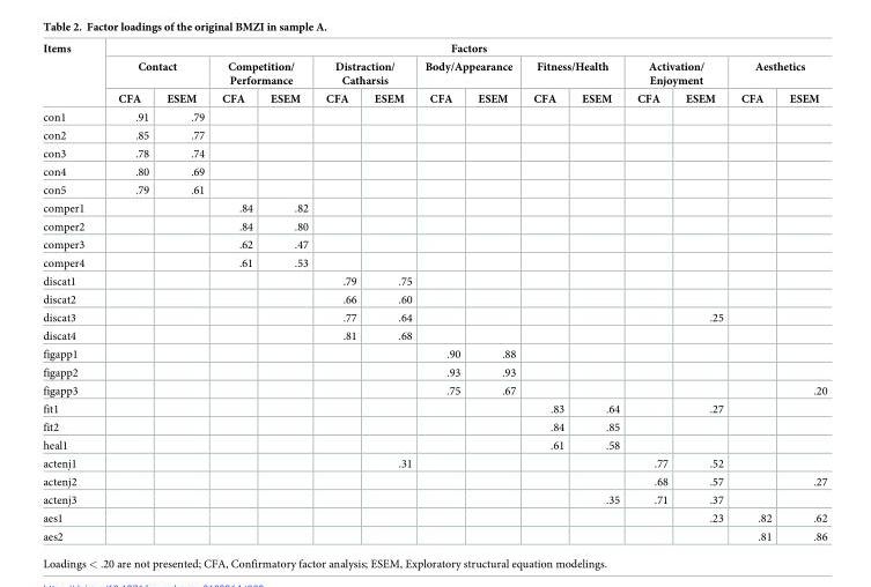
<table><thead><tr><td rowspan="3">Items</td><td colspan="14">Factors</td></tr><tr><td colspan="2">Contact</td><td colspan="2">Competition/ Performance</td><td colspan="2">Distraction/ Catharsis</td><td colspan="2">Body/Appearance</td><td colspan="2">Fitness/Health</td><td colspan="2">Activation/ Enjoyment</td><td colspan="2">Aesthetics</td></tr><tr><td>CFA</td><td>ESEM</td><td>CFA</td><td>ESEM</td><td>CFA</td><td>ESEM</td><td>CFA</td><td>ESEM</td><td>CFA</td><td>ESEM</td><td>CFA</td><td>ESEM</td><td>CFA</td><td>ESEM</td></tr></thead><tbody><tr><td>con1</td><td>.91</td><td>.79</td><td></td><td></td><td></td><td></td><td></td><td></td><td></td><td></td><td></td><td></td><td></td><td></td></tr><tr><td>con2</td><td>.85</td><td>.77</td><td></td><td></td><td></td><td></td><td></td><td></td><td></td><td></td><td></td><td></td><td></td><td></td></tr><tr><td>con3</td><td>.78</td><td>.74</td><td></td><td></td><td></td><td></td><td></td><td></td><td></td><td></td><td></td><td></td><td></td><td></td></tr><tr><td>con4</td><td>.80</td><td>.69</td><td></td><td></td><td></td><td></td><td></td><td></td><td></td><td></td><td></td><td></td><td></td><td></td></tr><tr><td>con5</td><td>.79</td><td>.61</td><td></td><td></td><td></td><td></td><td></td><td></td><td></td><td></td><td></td><td></td><td></td><td></td></tr><tr><td>comper1</td><td></td><td></td><td>.84</td><td>.82</td><td></td><td></td><td></td><td></td><td></td><td></td><td></td><td></td><td></td><td></td></tr><tr><td>comper2</td><td></td><td></td><td>.84</td><td>.80</td><td></td><td></td><td></td><td></td><td></td><td></td><td></td><td></td><td></td><td></td></tr><tr><td>comper3</td><td></td><td></td><td>.62</td><td>.47</td><td></td><td></td><td></td><td></td><td></td><td></td><td></td><td></td><td></td><td></td></tr><tr><td>comper4</td><td></td><td></td><td>.61</td><td>.53</td><td></td><td></td><td></td><td></td><td></td><td></td><td></td><td></td><td></td><td></td></tr><tr><td>discat1</td><td></td><td></td><td></td><td></td><td>.79</td><td>.75</td><td></td><td></td><td></td><td></td><td></td><td></td><td></td><td></td></tr><tr><td>discat2</td><td></td><td></td><td></td><td></td><td>.66</td><td>.60</td><td></td><td></td><td></td><td></td><td></td><td></td><td></td><td></td></tr><tr><td>discat3</td><td></td><td></td><td></td><td></td><td>.77</td><td>.64</td><td></td><td></td><td></td><td></td><td></td><td>.25</td><td></td><td></td></tr><tr><td>discat4</td><td></td><td></td><td></td><td></td><td>.81</td><td>.68</td><td></td><td></td><td></td><td></td><td></td><td></td><td></td><td></td></tr><tr><td>figapp1</td><td></td><td></td><td></td><td></td><td></td><td></td><td>.90</td><td>.88</td><td></td><td></td><td></td><td></td><td></td><td></td></tr><tr><td>figapp2</td><td></td><td></td><td></td><td></td><td></td><td></td><td>.93</td><td>.93</td><td></td><td></td><td></td><td></td><td></td><td></td></tr><tr><td>figapp3</td><td></td><td></td><td></td><td></td><td></td><td></td><td>.75</td><td>.67</td><td></td><td></td><td></td><td></td><td></td><td>.20</td></tr><tr><td>fit1</td><td></td><td></td><td></td><td></td><td></td><td></td><td></td><td></td><td>.83</td><td>.64</td><td></td><td>.27</td><td></td><td></td></tr><tr><td>fit2</td><td></td><td></td><td></td><td></td><td></td><td></td><td></td><td></td><td>.84</td><td>.85</td><td></td><td></td><td></td><td></td></tr><tr><td>heal1</td><td></td><td></td><td></td><td></td><td></td><td></td><td></td><td></td><td>.61</td><td>.58</td><td></td><td></td><td></td><td></td></tr><tr><td>actenj1</td><td></td><td></td><td></td><td></td><td></td><td>.31</td><td></td><td></td><td></td><td></td><td>.77</td><td>.52</td><td></td><td></td></tr><tr><td>actenj2</td><td></td><td></td><td></td><td></td><td></td><td></td><td></td><td></td><td></td><td></td><td>.68</td><td>.57</td><td></td><td>.27</td></tr><tr><td>actenj3</td><td></td><td></td><td></td><td></td><td></td><td></td><td></td><td></td><td></td><td>.35</td><td>.71</td><td>.37</td><td></td><td></td></tr><tr><td>aes1</td><td></td><td></td><td></td><td></td><td></td><td></td><td></td><td></td><td></td><td></td><td></td><td>.23</td><td>.82</td><td>.62</td></tr><tr><td>aes2</td><td></td><td></td><td></td><td></td><td></td><td></td><td></td><td></td><td></td><td></td><td></td><td></td><td>.81</td><td>.86</td></tr></tbody></table>